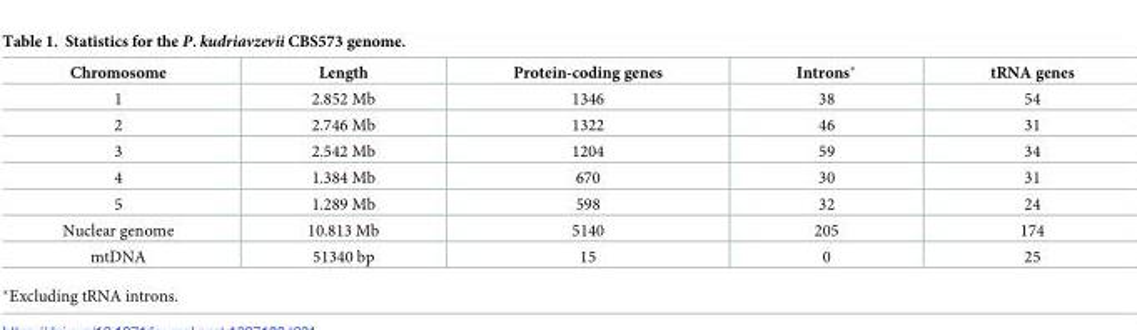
<table><thead><tr><td>Chromosome</td><td>Length</td><td>Protein-coding genes</td><td>Introns*</td><td>tRNA genes</td></tr></thead><tbody><tr><td>1</td><td>2.852 Mb</td><td>1346</td><td>38</td><td>54</td></tr><tr><td>2</td><td>2.746 Mb</td><td>1322</td><td>46</td><td>31</td></tr><tr><td>3</td><td>2.542 Mb</td><td>1204</td><td>59</td><td>34</td></tr><tr><td>4</td><td>1.384 Mb</td><td>670</td><td>30</td><td>31</td></tr><tr><td>5</td><td>1.289 Mb</td><td>598</td><td>32</td><td>24</td></tr><tr><td>Nuclear genome</td><td>10.813 Mb</td><td>5140</td><td>205</td><td>174</td></tr><tr><td>mtDNA</td><td>51340 bp</td><td>15</td><td>0</td><td>25</td></tr></tbody></table>